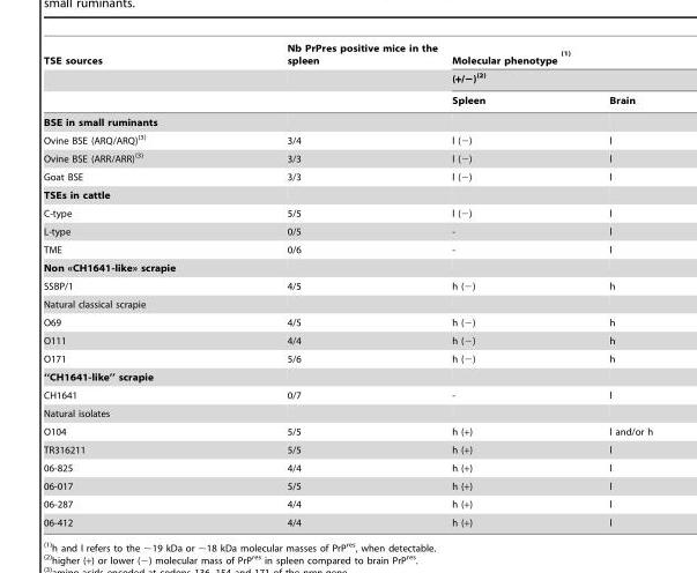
<table><thead><tr><td rowspan="3">TSE sources</td><td rowspan="3">Nb PrPres positive mice in the spleen</td><td rowspan="2" colspan="2">Molecular phenotype (1) (+/−)(2)</td></tr><tr></tr><tr><td>Spleen</td><td>Brain</td></tr></thead><tbody><tr><td colspan="4">BSE in small ruminants</td></tr><tr><td>Ovine BSE (ARQ/ARQ)(3)</td><td>3/4</td><td>l (−)</td><td>l</td></tr><tr><td>Ovine BSE (ARR/ARR)(3)</td><td>3/3</td><td>l (−)</td><td>l</td></tr><tr><td>Goat BSE</td><td>3/3</td><td>l (−)</td><td>l</td></tr><tr><td colspan="4">TSEs in cattle</td></tr><tr><td>C-type</td><td>5/5</td><td>l (−)</td><td>l</td></tr><tr><td>L-type</td><td>0/5</td><td>-</td><td>l</td></tr><tr><td>TME</td><td>0/6</td><td>-</td><td>l</td></tr><tr><td colspan="4">Non «CH1641-like» scrapie</td></tr><tr><td>SSBP/1</td><td>4/5</td><td>h (−)</td><td>h</td></tr><tr><td colspan="4">Natural classical scrapie</td></tr><tr><td>O69</td><td>4/5</td><td>h (−)</td><td>h</td></tr><tr><td>O111</td><td>4/4</td><td>h (−)</td><td>h</td></tr><tr><td>O171</td><td>5/6</td><td>h (−)</td><td>h</td></tr><tr><td colspan="4">‘‘CH1641-like’’ scrapie</td></tr><tr><td>CH1641</td><td>0/7</td><td>-</td><td>l</td></tr><tr><td colspan="4">Natural isolates</td></tr><tr><td>O104</td><td>5/5</td><td>h (+)</td><td>l and/or h</td></tr><tr><td>TR316211</td><td>5/5</td><td>h (+)</td><td>l</td></tr><tr><td>06-825</td><td>4/4</td><td>h (+)</td><td>l</td></tr><tr><td>06-017</td><td>5/5</td><td>h (+)</td><td>l</td></tr><tr><td>06-287</td><td>4/4</td><td>h (+)</td><td>l</td></tr><tr><td>06-412</td><td>4/4</td><td>h (+)</td><td>l</td></tr></tbody></table>